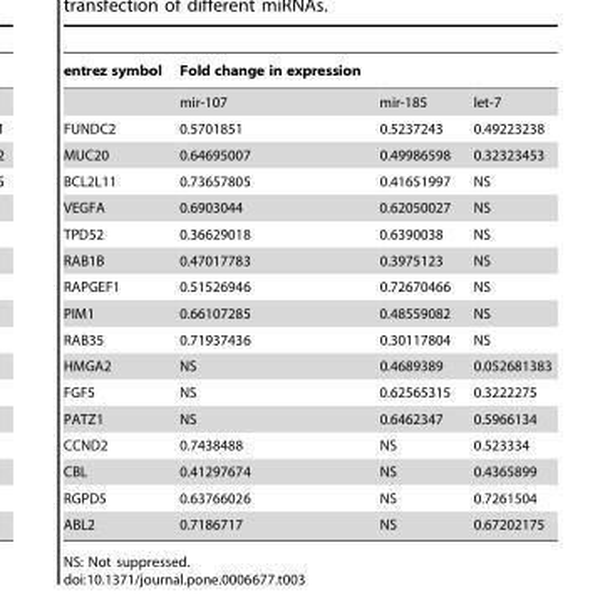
<table><thead><tr><td>entrez symbol</td><td>Fold change in expression</td><td></td><td></td></tr></thead><tbody><tr><td></td><td>mir-107</td><td>mir-185</td><td>let-7</td></tr><tr><td>FUNDC2</td><td>0.5701851</td><td>0.5237243</td><td>0.49223238</td></tr><tr><td>MUC20</td><td>0.64695007</td><td>0.49986598</td><td>0.32323453</td></tr><tr><td>BCL2L11</td><td>0.73657805</td><td>0.41651997</td><td>NS</td></tr><tr><td>VEGFA</td><td>0.6903044</td><td>0.62050027</td><td>NS</td></tr><tr><td>TPD52</td><td>0.36629018</td><td>0.6390038</td><td>NS</td></tr><tr><td>RAB1B</td><td>0.47017783</td><td>0.3975123</td><td>NS</td></tr><tr><td>RAPGEF1</td><td>0.51526946</td><td>0.72670466</td><td>NS</td></tr><tr><td>PIM1</td><td>0.66107285</td><td>0.48559082</td><td>NS</td></tr><tr><td>RAB35</td><td>0.71937436</td><td>0.30117804</td><td>NS</td></tr><tr><td>HMGA2</td><td>NS</td><td>0.4689389</td><td>0.052681383</td></tr><tr><td>FGF5</td><td>NS</td><td>0.62565315</td><td>0.3222275</td></tr><tr><td>PATZ1</td><td>NS</td><td>0.6462347</td><td>0.5966134</td></tr><tr><td>CCND2</td><td>0.7438488</td><td>NS</td><td>0.523334</td></tr><tr><td>CBL</td><td>0.41297674</td><td>NS</td><td>0.4365899</td></tr><tr><td>RGPD5</td><td>0.63766026</td><td>NS</td><td>0.7261504</td></tr><tr><td>ABL2</td><td>0.7186717</td><td>NS</td><td>0.67202175</td></tr></tbody></table>